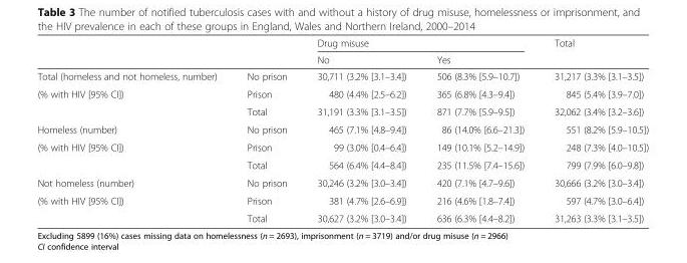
<table><thead><tr><td rowspan="2"></td><td rowspan="2"></td><td colspan="2">Drug misuse</td><td rowspan="2">Total</td></tr><tr><td>No</td><td>Yes</td></tr></thead><tbody><tr><td>Total (homeless and not homeless, number)</td><td>No prison</td><td>30,711 (3.2% [3.1–3.4])</td><td>506 (8.3% [5.9–10.7])</td><td>31,217 (3.3% [3.1–3.5])</td></tr><tr><td rowspan="2">(% with HIV [95% CI])</td><td>Prison</td><td>480 (4.4% [2.5–6.2])</td><td>365 (6.8% [4.3–9.4])</td><td>845 (5.4% [3.9–7.0])</td></tr><tr><td>Total</td><td>31,191 (3.3% [3.1–3.5])</td><td>871 (7.7% [5.9–9.5])</td><td>32,062 (3.4% [3.2–3.6])</td></tr><tr><td>Homeless (number)</td><td>No prison</td><td>465 (7.1% [4.8–9.4])</td><td>86 (14.0% [6.6–21.3])</td><td>551 (8.2% [5.9–10.5])</td></tr><tr><td rowspan="2">(% with HIV [95% CI])</td><td>Prison</td><td>99 (3.0% [0.4–6.4])</td><td>149 (10.1% [5.2–14.9])</td><td>248 (7.3% [4.0–10.5])</td></tr><tr><td>Total</td><td>564 (6.4% [4.4–8.4])</td><td>235 (11.5% [7.4–15.6])</td><td>799 (7.9% [6.0–9.8])</td></tr><tr><td>Not homeless (number)</td><td>No prison</td><td>30,246 (3.2% [3.0–3.4])</td><td>420 (7.1% [4.7–9.6])</td><td>30,666 (3.2% [3.0–3.4])</td></tr><tr><td rowspan="2">(% with HIV [95% CI])</td><td>Prison</td><td>381 (4.7% [2.6–6.9])</td><td>216 (4.6% [1.8–7.4])</td><td>597 (4.7% [3.0–6.4])</td></tr><tr><td>Total</td><td>30,627 (3.2% [3.0–3.4])</td><td>636 (6.3% [4.4–8.2])</td><td>31,263 (3.3% [3.1–3.5])</td></tr></tbody></table>